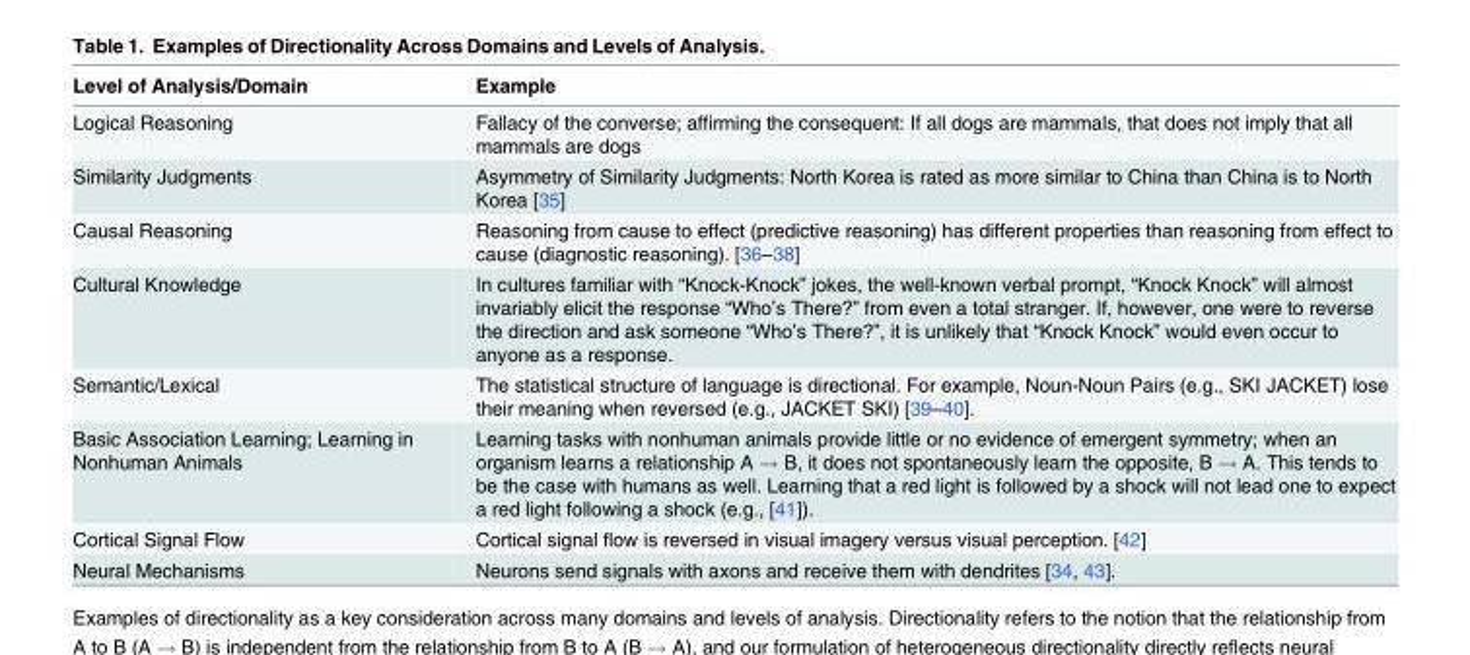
<table><thead><tr><td>Level of Analysis/Domain</td><td>Example</td></tr></thead><tbody><tr><td>Logical Reasoning</td><td>Fallacy of the converse; affirming the consequent: If all dogs are mammals, that does not imply that all mammals are dogs</td></tr><tr><td>Similarity Judgments</td><td>Asymmetry of Similarity Judgments: North Korea is rated as more similar to China than China is to North Korea [35]</td></tr><tr><td>Causal Reasoning</td><td>Reasoning from cause to effect (predictive reasoning) has different properties than reasoning from effect to cause (diagnostic reasoning). [36–38]</td></tr><tr><td>Cultural Knowledge</td><td>In cultures familiar with “Knock-Knock” jokes, the well-known verbal prompt, “Knock Knock” will almost invariably elicit the response “Who’s There?” from even a total stranger. If, however, one were to reverse the direction and ask someone “Who’s There?”, it is unlikely that “Knock Knock” would even occur to anyone as a response.</td></tr><tr><td>Semantic/Lexical</td><td>The statistical structure of language is directional. For example, Noun-Noun Pairs (e.g., SKI JACKET) lose their meaning when reversed (e.g., JACKET SKI) [39–40].</td></tr><tr><td>Basic Association Learning; Learning in Nonhuman Animals</td><td>Learning tasks with nonhuman animals provide little or no evidence of emergent symmetry; when an organism learns a relationship A → B, it does not spontaneously learn the opposite, B → A. This tends to be the case with humans as well. Learning that a red light is followed by a shock will not lead one to expect a red light following a shock (e.g., [41]).</td></tr><tr><td>Cortical Signal Flow</td><td>Cortical signal flow is reversed in visual imagery versus visual perception. [42]</td></tr><tr><td>Neural Mechanisms</td><td>Neurons send signals with axons and receive them with dendrites [34, 43].</td></tr></tbody></table>